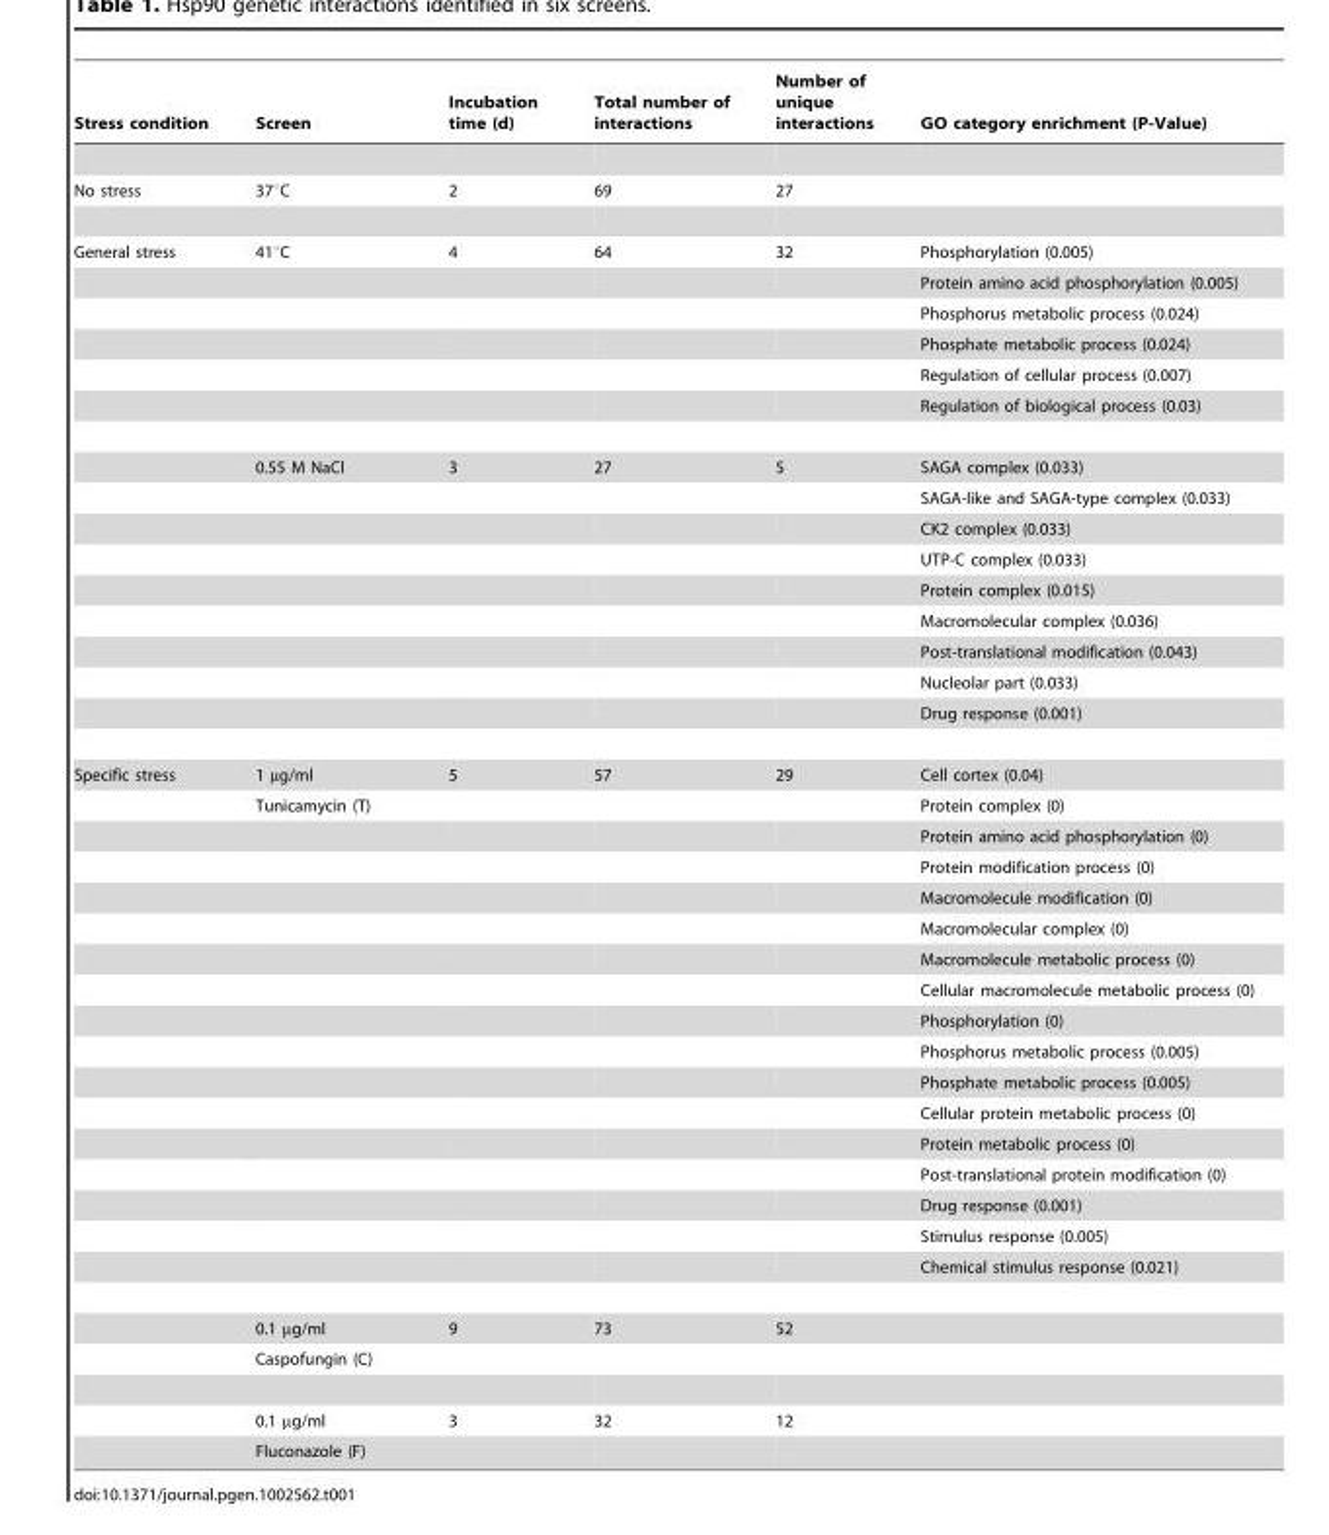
<table><thead><tr><td>Stress condition</td><td>Screen</td><td>Incubation time (d)</td><td>Total number of interactions</td><td>Number of unique interactions</td><td>GO category enrichment (P-Value)</td></tr></thead><tbody><tr><td>No stress</td><td>37°C</td><td>2</td><td>69</td><td>27</td><td></td></tr><tr><td rowspan="15">General stress</td><td>41°C</td><td>4</td><td>64</td><td>32</td><td>Phosphorylation (0.005)</td></tr><tr><td></td><td></td><td></td><td></td><td>Protein amino acid phosphorylation (0.005)</td></tr><tr><td></td><td></td><td></td><td></td><td>Phosphorus metabolic process (0.024)</td></tr><tr><td></td><td></td><td></td><td></td><td>Phosphate metabolic process (0.024)</td></tr><tr><td></td><td></td><td></td><td></td><td>Regulation of cellular process (0.007)</td></tr><tr><td></td><td></td><td></td><td></td><td>Regulation of biological process (0.03)</td></tr><tr><td>0.55 M NaCl</td><td>3</td><td>27</td><td>5</td><td>SAGA complex (0.033)</td></tr><tr><td></td><td></td><td></td><td></td><td>SAGA-like and SAGA-type complex (0.033)</td></tr><tr><td></td><td></td><td></td><td></td><td>CK2 complex (0.033)</td></tr><tr><td></td><td></td><td></td><td></td><td>UTP-C complex (0.033)</td></tr><tr><td></td><td></td><td></td><td></td><td>Protein complex (0.015)</td></tr><tr><td></td><td></td><td></td><td></td><td>Macromolecular complex (0.036)</td></tr><tr><td></td><td></td><td></td><td></td><td>Post-translational modification (0.043)</td></tr><tr><td></td><td></td><td></td><td></td><td>Nucleolar part (0.033)</td></tr><tr><td></td><td></td><td></td><td></td><td>Drug response (0.001)</td></tr><tr><td rowspan="21">Specific stress</td><td>1 µg/ml</td><td>5</td><td>57</td><td>29</td><td>Cell cortex (0.04)</td></tr><tr><td>Tunicamycin (T)</td><td></td><td></td><td></td><td>Protein complex (0)</td></tr><tr><td></td><td></td><td></td><td></td><td>Protein amino acid phosphorylation (0)</td></tr><tr><td></td><td></td><td></td><td></td><td>Protein modification process (0)</td></tr><tr><td></td><td></td><td></td><td></td><td>Macromolecule modification (0)</td></tr><tr><td></td><td></td><td></td><td></td><td>Macromolecular complex (0)</td></tr><tr><td></td><td></td><td></td><td></td><td>Macromolecule metabolic process (0)</td></tr><tr><td></td><td></td><td></td><td></td><td>Cellular macromolecule metabolic process (0)</td></tr><tr><td></td><td></td><td></td><td></td><td>Phosphorylation (0)</td></tr><tr><td></td><td></td><td></td><td></td><td>Phosphorus metabolic process (0.005)</td></tr><tr><td></td><td></td><td></td><td></td><td>Phosphate metabolic process (0.005)</td></tr><tr><td></td><td></td><td></td><td></td><td>Cellular protein metabolic process (0)</td></tr><tr><td></td><td></td><td></td><td></td><td>Protein metabolic process (0)</td></tr><tr><td></td><td></td><td></td><td></td><td>Post-translational protein modification (0)</td></tr><tr><td></td><td></td><td></td><td></td><td>Drug response (0.001)</td></tr><tr><td></td><td></td><td></td><td></td><td>Stimulus response (0.005)</td></tr><tr><td></td><td></td><td></td><td></td><td>Chemical stimulus response (0.021)</td></tr><tr><td>0.1 µg/ml</td><td>9</td><td>73</td><td>52</td><td></td></tr><tr><td>Caspofungin (C)</td><td></td><td></td><td></td><td></td></tr><tr><td>0.1 µg/ml</td><td>3</td><td>32</td><td>12</td><td></td></tr><tr><td>Fluconazole (F)</td><td></td><td></td><td></td><td></td></tr></tbody></table>